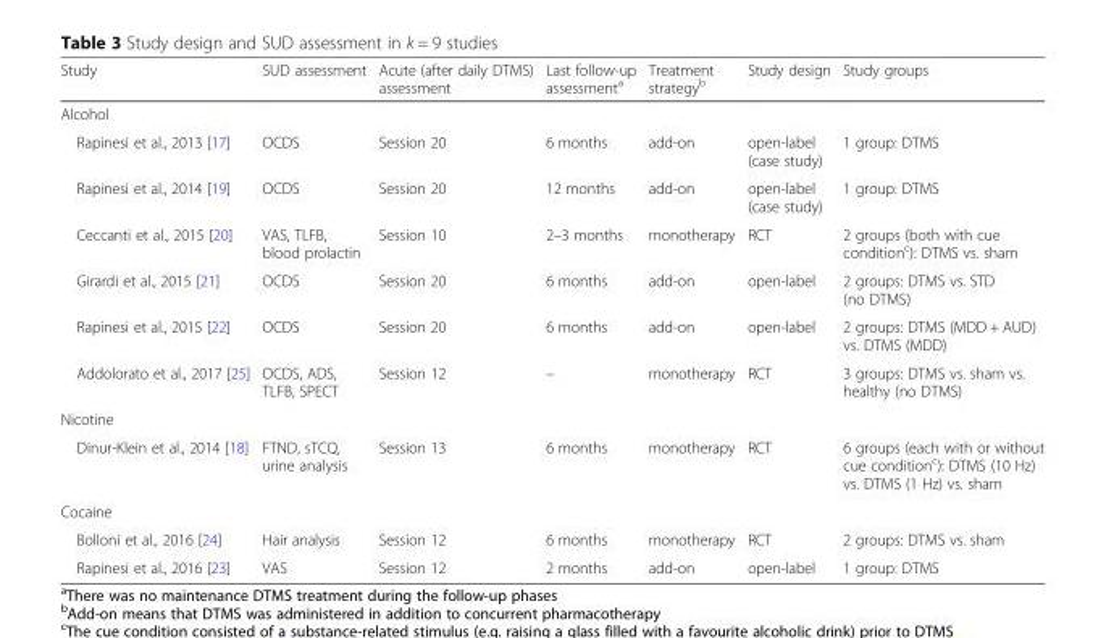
<table><thead><tr><td>Study</td><td>SUD assessment</td><td>Acute (after daily DTMS) assessment</td><td>Last follow-up assessment<sup>a</sup></td><td>Treatment strategy<sup>b</sup></td><td>Study design</td><td>Study groups</td></tr></thead><tbody><tr><td colspan="7">Alcohol</td></tr><tr><td>Rapinesi et al., 2013 [17]</td><td>OCDS</td><td>Session 20</td><td>6 months</td><td>add-on</td><td>open-label (case study)</td><td>1 group: DTMS</td></tr><tr><td>Rapinesi et al., 2014 [19]</td><td>OCDS</td><td>Session 20</td><td>12 months</td><td>add-on</td><td>open-label (case study)</td><td>1 group: DTMS</td></tr><tr><td>Ceccanti et al., 2015 [20]</td><td>VAS, TLFB, blood prolactin</td><td>Session 10</td><td>2–3 months</td><td>monotherapy</td><td>RCT</td><td>2 groups (both with cue condition<sup>c</sup>): DTMS vs. sham</td></tr><tr><td>Girardi et al., 2015 [21]</td><td>OCDS</td><td>Session 20</td><td>6 months</td><td>add-on</td><td>open-label</td><td>2 groups: DTMS vs. STD (no DTMS)</td></tr><tr><td>Rapinesi et al., 2015 [22]</td><td>OCDS</td><td>Session 20</td><td>6 months</td><td>add-on</td><td>open-label</td><td>2 groups: DTMS (MDD + AUD) vs. DTMS (MDD)</td></tr><tr><td>Addolorato et al., 2017 [25]</td><td>OCDS, ADS, TLFB, SPECT</td><td>Session 12</td><td>–</td><td>monotherapy</td><td>RCT</td><td>3 groups: DTMS vs. sham vs. healthy (no DTMS)</td></tr><tr><td colspan="7">Nicotine</td></tr><tr><td>Dinur-Klein et al., 2014 [18]</td><td>FTND, sTCQ, urine analysis</td><td>Session 13</td><td>6 months</td><td>monotherapy</td><td>RCT</td><td>6 groups (each with or without cue condition<sup>c</sup>): DTMS (10 Hz) vs. DTMS (1 Hz) vs. sham</td></tr><tr><td colspan="7">Cocaine</td></tr><tr><td>Bolloni et al., 2016 [24]</td><td>Hair analysis</td><td>Session 12</td><td>6 months</td><td>monotherapy</td><td>RCT</td><td>2 groups: DTMS vs. sham</td></tr><tr><td>Rapinesi et al., 2016 [23]</td><td>VAS</td><td>Session 12</td><td>2 months</td><td>add-on</td><td>open-label</td><td>1 group: DTMS</td></tr></tbody></table>